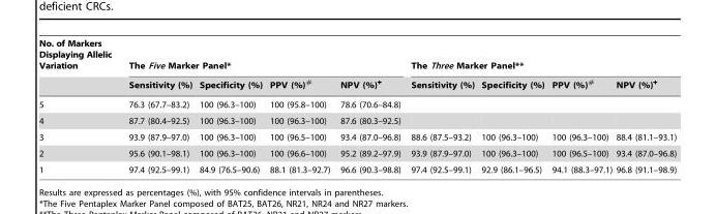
<table><thead><tr><td rowspan="2">No. of Markers Displaying Allelic Variation</td><td colspan="4">The Five Marker Panel*</td><td colspan="4">The Three Marker Panel**</td></tr><tr><td>Sensitivity (%)</td><td>Specificity (%)</td><td>PPV (%)#</td><td>NPV (%)+</td><td>Sensitivity (%)</td><td>Specificity (%)</td><td>PPV (%)#</td><td>NPV (%)+</td></tr></thead><tbody><tr><td>5</td><td>76.3 (67.7–83.2)</td><td>100 (96.3–100)</td><td>100 (95.8–100)</td><td>78.6 (70.6–84.8)</td><td></td><td></td><td></td><td></td></tr><tr><td>4</td><td>87.7 (80.4–92.5)</td><td>100 (96.3–100)</td><td>100 (96.3–100)</td><td>87.6 (80.3–92.5)</td><td></td><td></td><td></td><td></td></tr><tr><td>3</td><td>93.9 (87.9–97.0)</td><td>100 (96.3–100)</td><td>100 (96.5–100)</td><td>93.4 (87.0–96.8)</td><td>88.6 (87.5–93.2)</td><td>100 (96.3–100)</td><td>100 (96.3–100)</td><td>88.4 (81.1–93.1)</td></tr><tr><td>2</td><td>95.6 (90.1–98.1)</td><td>100 (96.3–100)</td><td>100 (96.6–100)</td><td>95.2 (89.2–97.9)</td><td>93.9 (87.9–97.0)</td><td>100 (96.3–100)</td><td>100 (96.5–100)</td><td>93.4 (87.0–96.8)</td></tr><tr><td>1</td><td>97.4 (92.5–99.1)</td><td>84.9 (76.5–90.6)</td><td>88.1 (81.3–92.7)</td><td>96.6 (90.3–98.8)</td><td>97.4 (92.5–99.1)</td><td>92.9 (86.1–96.5)</td><td>94.1 (88.3–97.1)</td><td>96.8 (91.1–98.9)</td></tr></tbody></table>